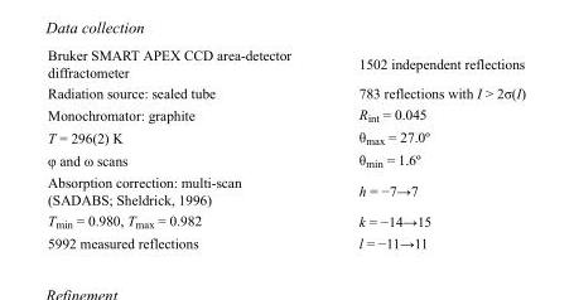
<table><tbody><tr><td>Bruker SMART APEX CCD area-detector diffractometer</td><td>1502 independent reflections</td></tr><tr><td>Radiation source: sealed tube</td><td>783 reflections with I &gt; 2σ(I)</td></tr><tr><td>Monochromator: graphite</td><td>R<sub>int</sub> = 0.045</td></tr><tr><td>T = 296(2) K</td><td>θ<sub>max</sub> = 27.0º</td></tr><tr><td>φ and ω scans</td><td>θ<sub>min</sub> = 1.6º</td></tr><tr><td>Absorption correction: multi-scan (SADABS; Sheldrick, 1996)</td><td>h = −7→7</td></tr><tr><td>T<sub>min</sub> = 0.980, T<sub>max</sub> = 0.982</td><td>k = −14→15</td></tr><tr><td>5992 measured reflections</td><td>l = −11→11</td></tr></tbody></table>